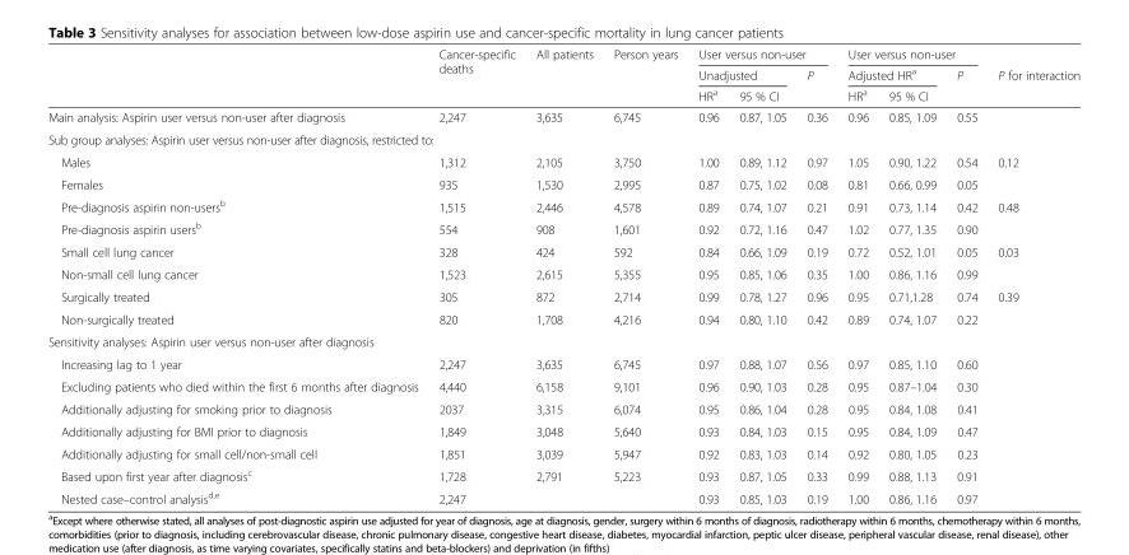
<table><thead><tr><td rowspan="3"></td><td rowspan="3">Cancer-specific deaths</td><td rowspan="3">All patients</td><td rowspan="3">Person years</td><td colspan="3">User versus non-user</td><td colspan="3">User versus non-user</td><td rowspan="3">P for interaction</td></tr><tr><td colspan="2">Unadjusted</td><td rowspan="2">P</td><td colspan="2">Adjusted HR<sup>a</sup></td><td rowspan="2">P</td></tr><tr><td>HR<sup>a</sup></td><td>95 % CI</td><td>HR<sup>a</sup></td><td>95 % CI</td></tr></thead><tbody><tr><td>Main analysis: Aspirin user versus non-user after diagnosis</td><td>2,247</td><td>3,635</td><td>6,745</td><td>0.96</td><td>0.87, 1.05</td><td>0.36</td><td>0.96</td><td>0.85, 1.09</td><td>0.55</td><td></td></tr><tr><td colspan="11">Sub group analyses: Aspirin user versus non-user after diagnosis, restricted to:</td></tr><tr><td>Males</td><td>1,312</td><td>2,105</td><td>3,750</td><td>1.00</td><td>0.89, 1.12</td><td>0.97</td><td>1.05</td><td>0.90, 1.22</td><td>0.54</td><td rowspan="2">0.12</td></tr><tr><td>Females</td><td>935</td><td>1,530</td><td>2,995</td><td>0.87</td><td>0.75, 1.02</td><td>0.08</td><td>0.81</td><td>0.66, 0.99</td><td>0.05</td></tr><tr><td>Pre-diagnosis aspirin non-users<sup>b</sup></td><td>1,515</td><td>2,446</td><td>4,578</td><td>0.89</td><td>0.74, 1.07</td><td>0.21</td><td>0.91</td><td>0.73, 1.14</td><td>0.42</td><td rowspan="2">0.48</td></tr><tr><td>Pre-diagnosis aspirin users<sup>b</sup></td><td>554</td><td>908</td><td>1,601</td><td>0.92</td><td>0.72, 1.16</td><td>0.47</td><td>1.02</td><td>0.77, 1.35</td><td>0.90</td></tr><tr><td>Small cell lung cancer</td><td>328</td><td>424</td><td>592</td><td>0.84</td><td>0.66, 1.09</td><td>0.19</td><td>0.72</td><td>0.52, 1.01</td><td>0.05</td><td rowspan="2">0.03</td></tr><tr><td>Non-small cell lung cancer</td><td>1,523</td><td>2,615</td><td>5,355</td><td>0.95</td><td>0.85, 1.06</td><td>0.35</td><td>1.00</td><td>0.86, 1.16</td><td>0.99</td></tr><tr><td>Surgically treated</td><td>305</td><td>872</td><td>2,714</td><td>0.99</td><td>0.78, 1.27</td><td>0.96</td><td>0.95</td><td>0.71,1.28</td><td>0.74</td><td rowspan="2">0.39</td></tr><tr><td>Non-surgically treated</td><td>820</td><td>1,708</td><td>4,216</td><td>0.94</td><td>0.80, 1.10</td><td>0.42</td><td>0.89</td><td>0.74, 1.07</td><td>0.22</td></tr><tr><td colspan="11">Sensitivity analyses: Aspirin user versus non-user after diagnosis</td></tr><tr><td>Increasing lag to 1 year</td><td>2,247</td><td>3,635</td><td>6,745</td><td>0.97</td><td>0.88, 1.07</td><td>0.56</td><td>0.97</td><td>0.85, 1.10</td><td>0.60</td><td></td></tr><tr><td>Excluding patients who died within the first 6 months after diagnosis</td><td>4,440</td><td>6,158</td><td>9,101</td><td>0.96</td><td>0.90, 1.03</td><td>0.28</td><td>0.95</td><td>0.87–1.04</td><td>0.30</td><td></td></tr><tr><td>Additionally adjusting for smoking prior to diagnosis</td><td>2037</td><td>3,315</td><td>6,074</td><td>0.95</td><td>0.86, 1.04</td><td>0.28</td><td>0.95</td><td>0.84, 1.08</td><td>0.41</td><td></td></tr><tr><td>Additionally adjusting for BMI prior to diagnosis</td><td>1,849</td><td>3,048</td><td>5,640</td><td>0.93</td><td>0.84, 1.03</td><td>0.15</td><td>0.95</td><td>0.84, 1.09</td><td>0.47</td><td></td></tr><tr><td>Additionally adjusting for small cell/non-small cell</td><td>1,851</td><td>3,039</td><td>5,947</td><td>0.92</td><td>0.83, 1.03</td><td>0.14</td><td>0.92</td><td>0.80, 1.05</td><td>0.23</td><td></td></tr><tr><td>Based upon first year after diagnosis<sup>c</sup></td><td>1,728</td><td>2,791</td><td>5,223</td><td>0.93</td><td>0.87, 1.05</td><td>0.33</td><td>0.99</td><td>0.88, 1.13</td><td>0.91</td><td></td></tr><tr><td>Nested case–control analysis<sup>d,e</sup></td><td>2,247</td><td></td><td></td><td>0.93</td><td>0.85, 1.03</td><td>0.19</td><td>1.00</td><td>0.86, 1.16</td><td>0.97</td><td></td></tr></tbody></table>